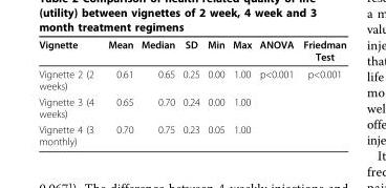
<table><thead><tr><td>Vignette</td><td>Mean</td><td>Median</td><td>SD</td><td>Min</td><td>Max</td><td>ANOVA</td><td>Friedman Test</td></tr></thead><tbody><tr><td>Vignette 2 (2 weeks)</td><td>0.61</td><td>0.65</td><td>0.25</td><td>0.00</td><td>1.00</td><td>p&lt;0.001</td><td>p&lt;0.001</td></tr><tr><td>Vignette 3 (4 weeks)</td><td>0.65</td><td>0.70</td><td>0.24</td><td>0.00</td><td>1.00</td><td></td><td></td></tr><tr><td>Vignette 4 (3 monthly)</td><td>0.70</td><td>0.75</td><td>0.23</td><td>0.05</td><td>1.00</td><td></td><td></td></tr></tbody></table>